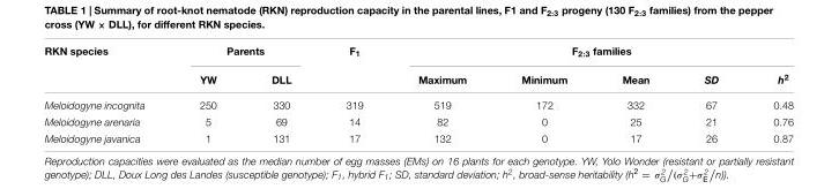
<table><thead><tr><td rowspan="2">RKN species</td><td colspan="2">Parents</td><td rowspan="2">F<sub>1</sub></td><td colspan="5">F<sub>2:3</sub> families</td></tr><tr><td>YW</td><td>DLL</td><td>Maximum</td><td>Minimum</td><td>Mean</td><td>SD</td><td>h<sup>2</sup></td></tr></thead><tbody><tr><td>Meloidogyne incognita</td><td>250</td><td>330</td><td>319</td><td>519</td><td>172</td><td>332</td><td>67</td><td>0.48</td></tr><tr><td>Meloidogyne arenaria</td><td>5</td><td>69</td><td>14</td><td>82</td><td>0</td><td>25</td><td>21</td><td>0.76</td></tr><tr><td>Meloidogyne javanica</td><td>1</td><td>131</td><td>17</td><td>132</td><td>0</td><td>17</td><td>26</td><td>0.87</td></tr></tbody></table>